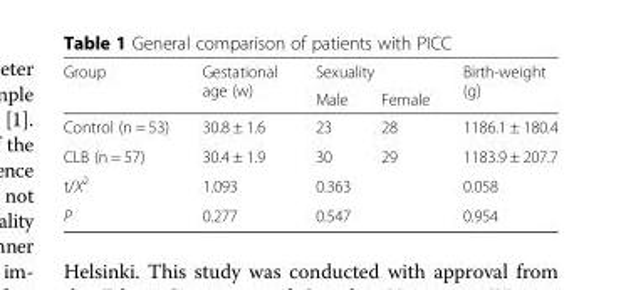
<table><thead><tr><td rowspan="2">Group</td><td rowspan="2">Gestational age (w)</td><td colspan="2">Sexuality</td><td rowspan="2">Birth-weight (g)</td></tr><tr><td>Male</td><td>Female</td></tr></thead><tbody><tr><td>Control (n = 53)</td><td>30.8 ± 1.6</td><td>23</td><td>28</td><td>1186.1 ± 180.4</td></tr><tr><td>CLB (n = 57)</td><td>30.4 ± 1.9</td><td>30</td><td>29</td><td>1183.9 ± 207.7</td></tr><tr><td>t/X<sup>2</sup></td><td>1.093</td><td colspan="2">0.363</td><td>0.058</td></tr><tr><td>P</td><td>0.277</td><td colspan="2">0.547</td><td>0.954</td></tr></tbody></table>